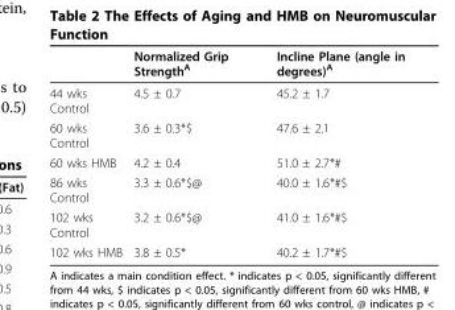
<table><thead><tr><td></td><td>Normalized Grip Strength<sup>A</sup></td><td>Incline Plane (angle in degrees)<sup>A</sup></td></tr></thead><tbody><tr><td>44 wks Control</td><td>4.5 ± 0.7</td><td>45.2 ± 1.7</td></tr><tr><td>60 wks Control</td><td>3.6 ± 0.3*$</td><td>47.6 ± 2.1</td></tr><tr><td>60 wks HMB</td><td>4.2 ± 0.4</td><td>51.0 ± 2.7*#</td></tr><tr><td>86 wks Control</td><td>3.3 ± 0.6*$@</td><td>40.0 ± 1.6*#$</td></tr><tr><td>102 wks Control</td><td>3.2 ± 0.6*$@</td><td>41.0 ± 1.6*#$</td></tr><tr><td>102 wks HMB</td><td>3.8 ± 0.5*</td><td>40.2 ± 1.7*#$</td></tr></tbody></table>